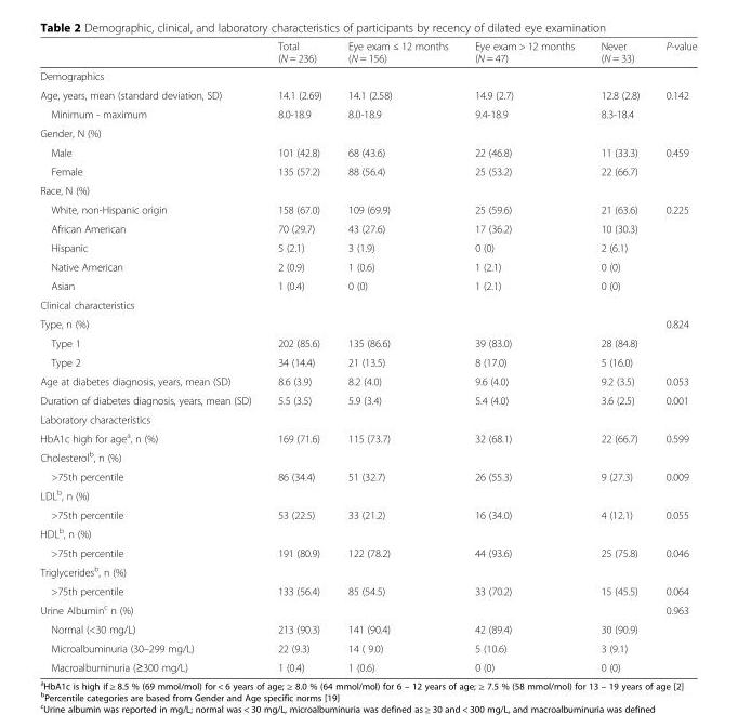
<table><thead><tr><td></td><td>Total (N = 236)</td><td>Eye exam ≤ 12 months (N = 156)</td><td>Eye exam &gt; 12 months (N = 47)</td><td>Never (N = 33)</td><td>P-value</td></tr></thead><tbody><tr><td colspan="6">Demographics</td></tr><tr><td>Age, years, mean (standard deviation, SD)</td><td>14.1 (2.69)</td><td>14.1 (2.58)</td><td>14.9 (2.7)</td><td>12.8 (2.8)</td><td>0.142</td></tr><tr><td>Minimum - maximum</td><td>8.0-18.9</td><td>8.0-18.9</td><td>9.4-18.9</td><td>8.3-18.4</td><td></td></tr><tr><td colspan="6">Gender, N (%)</td></tr><tr><td>Male</td><td>101 (42.8)</td><td>68 (43.6)</td><td>22 (46.8)</td><td>11 (33.3)</td><td>0.459</td></tr><tr><td>Female</td><td>135 (57.2)</td><td>88 (56.4)</td><td>25 (53.2)</td><td>22 (66.7)</td><td></td></tr><tr><td colspan="6">Race, N (%)</td></tr><tr><td>White, non-Hispanic origin</td><td>158 (67.0)</td><td>109 (69.9)</td><td>25 (59.6)</td><td>21 (63.6)</td><td>0.225</td></tr><tr><td>African American</td><td>70 (29.7)</td><td>43 (27.6)</td><td>17 (36.2)</td><td>10 (30.3)</td><td></td></tr><tr><td>Hispanic</td><td>5 (2.1)</td><td>3 (1.9)</td><td>0 (0)</td><td>2 (6.1)</td><td></td></tr><tr><td>Native American</td><td>2 (0.9)</td><td>1 (0.6)</td><td>1 (2.1)</td><td>0 (0)</td><td></td></tr><tr><td>Asian</td><td>1 (0.4)</td><td>0 (0)</td><td>1 (2.1)</td><td>0 (0)</td><td></td></tr><tr><td colspan="6">Clinical characteristics</td></tr><tr><td>Type, n (%)</td><td></td><td></td><td></td><td></td><td>0.824</td></tr><tr><td>Type 1</td><td>202 (85.6)</td><td>135 (86.6)</td><td>39 (83.0)</td><td>28 (84.8)</td><td></td></tr><tr><td>Type 2</td><td>34 (14.4)</td><td>21 (13.5)</td><td>8 (17.0)</td><td>5 (16.0)</td><td></td></tr><tr><td>Age at diabetes diagnosis, years, mean (SD)</td><td>8.6 (3.9)</td><td>8.2 (4.0)</td><td>9.6 (4.0)</td><td>9.2 (3.5)</td><td>0.053</td></tr><tr><td>Duration of diabetes diagnosis, years, mean (SD)</td><td>5.5 (3.5)</td><td>5.9 (3.4)</td><td>5.4 (4.0)</td><td>3.6 (2.5)</td><td>0.001</td></tr><tr><td colspan="6">Laboratory characteristics</td></tr><tr><td>HbA1c high for age<sup>a</sup>, n (%)</td><td>169 (71.6)</td><td>115 (73.7)</td><td>32 (68.1)</td><td>22 (66.7)</td><td>0.599</td></tr><tr><td colspan="6">Cholesterol<sup>b</sup>, n (%)</td></tr><tr><td>&gt;75th percentile</td><td>86 (34.4)</td><td>51 (32.7)</td><td>26 (55.3)</td><td>9 (27.3)</td><td>0.009</td></tr><tr><td colspan="6">LDL<sup>b</sup>, n (%)</td></tr><tr><td>&gt;75th percentile</td><td>53 (22.5)</td><td>33 (21.2)</td><td>16 (34.0)</td><td>4 (12.1)</td><td>0.055</td></tr><tr><td colspan="6">HDL<sup>b</sup>, n (%)</td></tr><tr><td>&gt;75th percentile</td><td>191 (80.9)</td><td>122 (78.2)</td><td>44 (93.6)</td><td>25 (75.8)</td><td>0.046</td></tr><tr><td colspan="6">Triglycerides<sup>b</sup>, n (%)</td></tr><tr><td>&gt;75th percentile</td><td>133 (56.4)</td><td>85 (54.5)</td><td>33 (70.2)</td><td>15 (45.5)</td><td>0.064</td></tr><tr><td>Urine Albumin<sup>c</sup> n (%)</td><td></td><td></td><td></td><td></td><td>0.963</td></tr><tr><td>Normal (&lt;30 mg/L)</td><td>213 (90.3)</td><td>141 (90.4)</td><td>42 (89.4)</td><td>30 (90.9)</td><td></td></tr><tr><td>Microalbuminuria (30–299 mg/L)</td><td>22 (9.3)</td><td>14 ( 9.0)</td><td>5 (10.6)</td><td>3 (9.1)</td><td></td></tr><tr><td>Macroalbuminuria (≥300 mg/L)</td><td>1 (0.4)</td><td>1 (0.6)</td><td>0 (0)</td><td>0 (0)</td><td></td></tr></tbody></table>